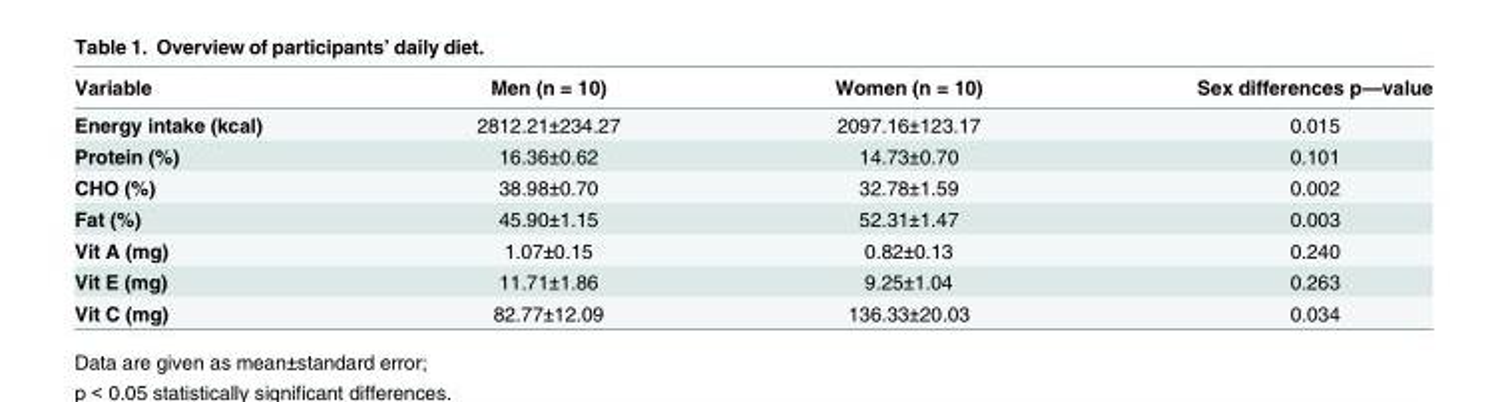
<table><thead><tr><td>Variable</td><td>Men (n = 10)</td><td>Women (n = 10)</td><td>Sex differences p—value</td></tr></thead><tbody><tr><td>Energy intake (kcal)</td><td>2812.21±234.27</td><td>2097.16±123.17</td><td>0.015</td></tr><tr><td>Protein (%)</td><td>16.36±0.62</td><td>14.73±0.70</td><td>0.101</td></tr><tr><td>CHO (%)</td><td>38.98±0.70</td><td>32.78±1.59</td><td>0.002</td></tr><tr><td>Fat (%)</td><td>45.90±1.15</td><td>52.31±1.47</td><td>0.003</td></tr><tr><td>Vit A (mg)</td><td>1.07±0.15</td><td>0.82±0.13</td><td>0.240</td></tr><tr><td>Vit E (mg)</td><td>11.71±1.86</td><td>9.25±1.04</td><td>0.263</td></tr><tr><td>Vit C (mg)</td><td>82.77±12.09</td><td>136.33±20.03</td><td>0.034</td></tr></tbody></table>